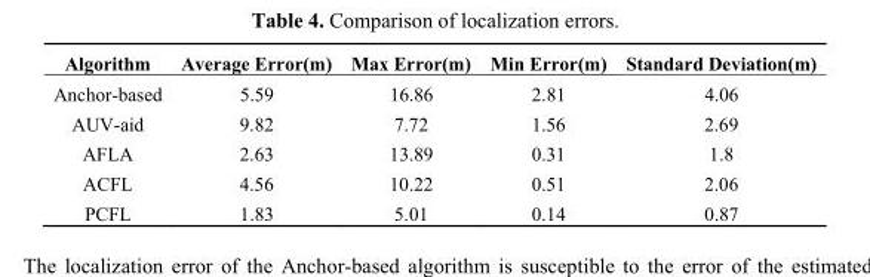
<table><thead><tr><td>Algorithm</td><td>Average Error(m)</td><td>Max Error(m)</td><td>Min Error(m)</td><td>Standard Deviation(m)</td></tr></thead><tbody><tr><td>Anchor-based</td><td>5.59</td><td>16.86</td><td>2.81</td><td>4.06</td></tr><tr><td>AUV-aid</td><td>9.82</td><td>7.72</td><td>1.56</td><td>2.69</td></tr><tr><td>AFLA</td><td>2.63</td><td>13.89</td><td>0.31</td><td>1.8</td></tr><tr><td>ACFL</td><td>4.56</td><td>10.22</td><td>0.51</td><td>2.06</td></tr><tr><td>PCFL</td><td>1.83</td><td>5.01</td><td>0.14</td><td>0.87</td></tr></tbody></table>